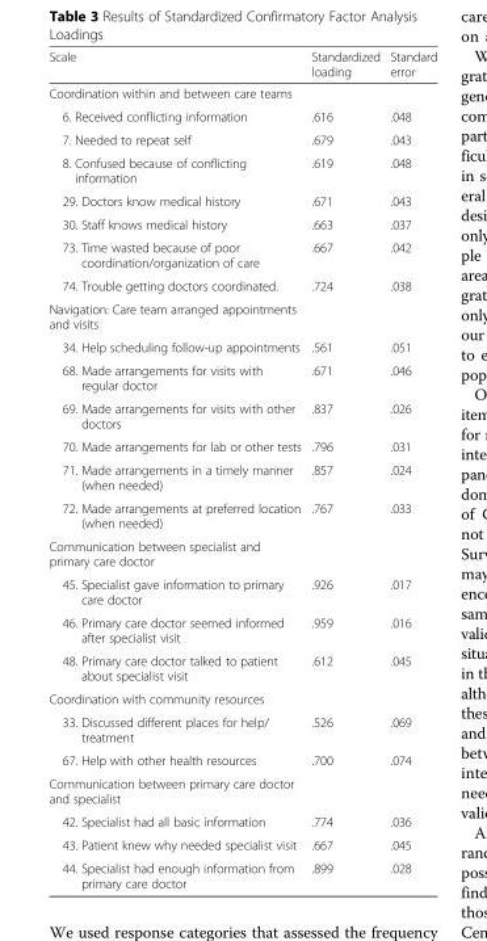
<table><thead><tr><td>Scale</td><td>Standardized loading</td><td>Standard error</td></tr></thead><tbody><tr><td colspan="3">Coordination within and between care teams</td></tr><tr><td>6. Received conflicting information</td><td>.616</td><td>.048</td></tr><tr><td>7. Needed to repeat self</td><td>.679</td><td>.043</td></tr><tr><td>8. Confused because of conflicting information</td><td>.619</td><td>.048</td></tr><tr><td>29. Doctors know medical history</td><td>.671</td><td>.043</td></tr><tr><td>30. Staff knows medical history</td><td>.663</td><td>.037</td></tr><tr><td>73. Time wasted because of poor coordination/organization of care</td><td>.667</td><td>.042</td></tr><tr><td>74. Trouble getting doctors coordinated.</td><td>.724</td><td>.038</td></tr><tr><td colspan="3">Navigation: Care team arranged appointments and visits</td></tr><tr><td>34. Help scheduling follow-up appointments</td><td>.561</td><td>.051</td></tr><tr><td>68. Made arrangements for visits with regular doctor</td><td>.671</td><td>.046</td></tr><tr><td>69. Made arrangements for visits with other doctors</td><td>.837</td><td>.026</td></tr><tr><td>70. Made arrangements for lab or other tests</td><td>.796</td><td>.031</td></tr><tr><td>71. Made arrangements in a timely manner (when needed)</td><td>.857</td><td>.024</td></tr><tr><td>72. Made arrangements at preferred location (when needed)</td><td>.767</td><td>.033</td></tr><tr><td colspan="3">Communication between specialist and primary care doctor</td></tr><tr><td>45. Specialist gave information to primary care doctor</td><td>.926</td><td>.017</td></tr><tr><td>46. Primary care doctor seemed informed after specialist visit</td><td>.959</td><td>.016</td></tr><tr><td>48. Primary care doctor talked to patient about specialist visit</td><td>.612</td><td>.045</td></tr><tr><td colspan="3">Coordination with community resources</td></tr><tr><td>33. Discussed different places for help/ treatment</td><td>.526</td><td>.069</td></tr><tr><td>67. Help with other health resources</td><td>.700</td><td>.074</td></tr><tr><td colspan="3">Communication between primary care doctor and specialist</td></tr><tr><td>42. Specialist had all basic information</td><td>.774</td><td>.036</td></tr><tr><td>43. Patient knew why needed specialist visit</td><td>.667</td><td>.045</td></tr><tr><td>44. Specialist had enough information from primary care doctor</td><td>.899</td><td>.028</td></tr></tbody></table>